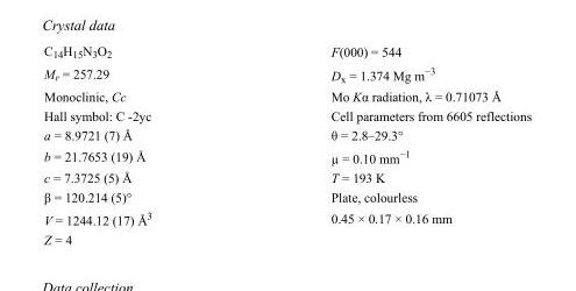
<table><tbody><tr><td>C<sub>14</sub>H<sub>15</sub>N<sub>3</sub>O<sub>2</sub></td><td>F(000) = 544</td></tr><tr><td>M<sub>r</sub> = 257.29</td><td>D<sub>x</sub> = 1.374 Mg m<sup>−3</sup></td></tr><tr><td>Monoclinic, Cc</td><td>Mo Kα radiation, λ = 0.71073 Å</td></tr><tr><td>Hall symbol: C -2yc</td><td>Cell parameters from 6605 reflections</td></tr><tr><td>a = 8.9721 (7) Å</td><td>θ = 2.8–29.3°</td></tr><tr><td>b = 21.7653 (19) Å</td><td>µ = 0.10 mm<sup>−1</sup></td></tr><tr><td>c = 7.3725 (5) Å</td><td>T = 193 K</td></tr><tr><td>β = 120.214 (5)°</td><td>Plate, colourless</td></tr><tr><td>V = 1244.12 (17) Å<sup>3</sup></td><td>0.45 × 0.17 × 0.16 mm</td></tr><tr><td>Z = 4</td><td></td></tr></tbody></table>